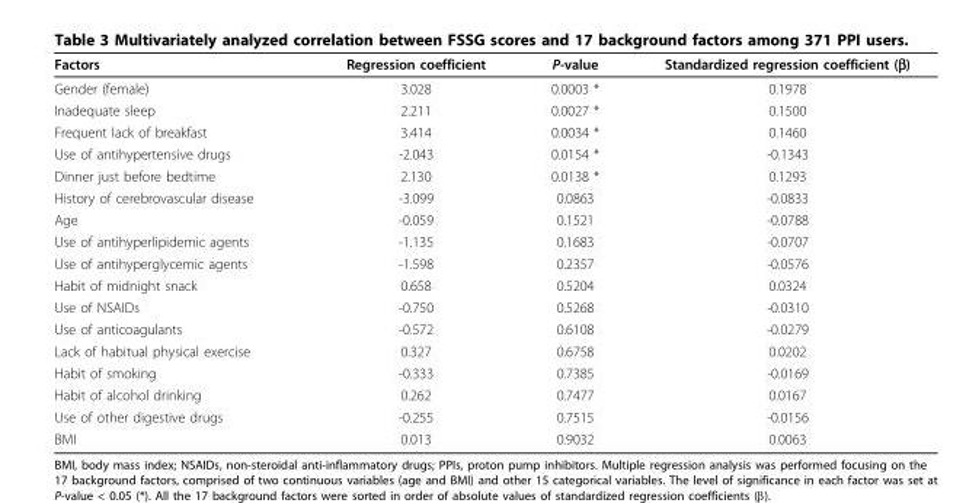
<table><thead><tr><td>Factors</td><td>Regression coefficient</td><td>P-value</td><td>Standardized regression coefficient (β)</td></tr></thead><tbody><tr><td>Gender (female)</td><td>3.028</td><td>0.0003 *</td><td>0.1978</td></tr><tr><td>Inadequate sleep</td><td>2.211</td><td>0.0027 *</td><td>0.1500</td></tr><tr><td>Frequent lack of breakfast</td><td>3.414</td><td>0.0034 *</td><td>0.1460</td></tr><tr><td>Use of antihypertensive drugs</td><td>-2.043</td><td>0.0154 *</td><td>-0.1343</td></tr><tr><td>Dinner just before bedtime</td><td>2.130</td><td>0.0138 *</td><td>0.1293</td></tr><tr><td>History of cerebrovascular disease</td><td>-3.099</td><td>0.0863</td><td>-0.0833</td></tr><tr><td>Age</td><td>-0.059</td><td>0.1521</td><td>-0.0788</td></tr><tr><td>Use of antihyperlipidemic agents</td><td>-1.135</td><td>0.1683</td><td>-0.0707</td></tr><tr><td>Use of antihyperglycemic agents</td><td>-1.598</td><td>0.2357</td><td>-0.0576</td></tr><tr><td>Habit of midnight snack</td><td>0.658</td><td>0.5204</td><td>0.0324</td></tr><tr><td>Use of NSAIDs</td><td>-0.750</td><td>0.5268</td><td>-0.0310</td></tr><tr><td>Use of anticoagulants</td><td>-0.572</td><td>0.6108</td><td>-0.0279</td></tr><tr><td>Lack of habitual physical exercise</td><td>0.327</td><td>0.6758</td><td>0.0202</td></tr><tr><td>Habit of smoking</td><td>-0.333</td><td>0.7385</td><td>-0.0169</td></tr><tr><td>Habit of alcohol drinking</td><td>0.262</td><td>0.7477</td><td>0.0167</td></tr><tr><td>Use of other digestive drugs</td><td>-0.255</td><td>0.7515</td><td>-0.0156</td></tr><tr><td>BMI</td><td>0.013</td><td>0.9032</td><td>0.0063</td></tr></tbody></table>